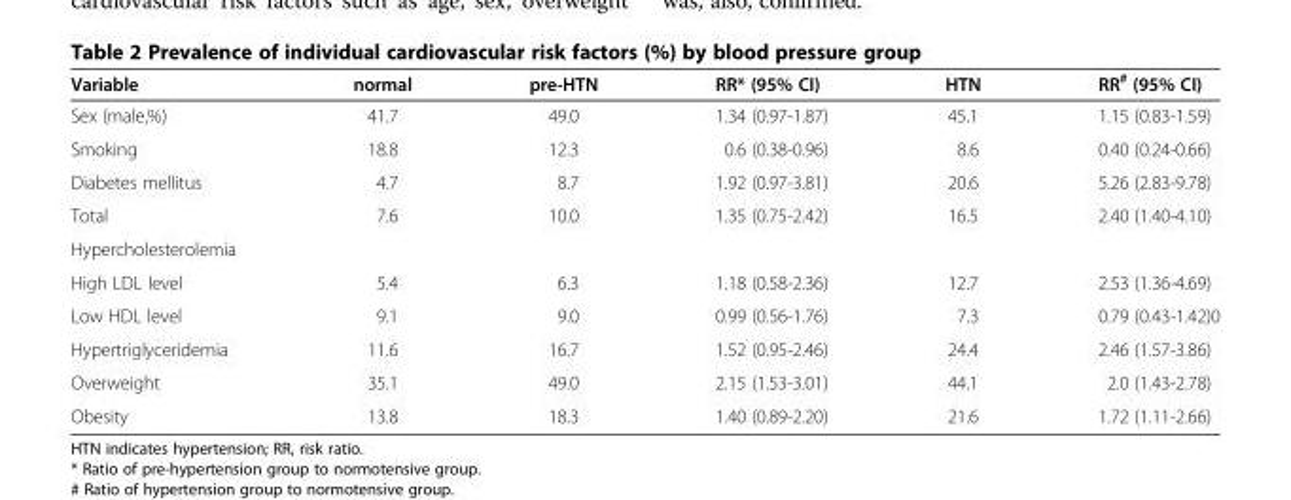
<table><thead><tr><td>Variable</td><td>normal</td><td>pre-HTN</td><td>RR* (95% CI)</td><td>HTN</td><td>RR<sup>#</sup> (95% CI)</td></tr></thead><tbody><tr><td>Sex (male,%)</td><td>41.7</td><td>49.0</td><td>1.34 (0.97-1.87)</td><td>45.1</td><td>1.15 (0.83-1.59)</td></tr><tr><td>Smoking</td><td>18.8</td><td>12.3</td><td>0.6 (0.38-0.96)</td><td>8.6</td><td>0.40 (0.24-0.66)</td></tr><tr><td>Diabetes mellitus</td><td>4.7</td><td>8.7</td><td>1.92 (0.97-3.81)</td><td>20.6</td><td>5.26 (2.83-9.78)</td></tr><tr><td>Total</td><td>7.6</td><td>10.0</td><td>1.35 (0.75-2.42)</td><td>16.5</td><td>2.40 (1.40-4.10)</td></tr><tr><td colspan="6">Hypercholesterolemia</td></tr><tr><td>High LDL level</td><td>5.4</td><td>6.3</td><td>1.18 (0.58-2.36)</td><td>12.7</td><td>2.53 (1.36-4.69)</td></tr><tr><td>Low HDL level</td><td>9.1</td><td>9.0</td><td>0.99 (0.56-1.76)</td><td>7.3</td><td>0.79 (0.43-1.42)0</td></tr><tr><td>Hypertriglyceridemia</td><td>11.6</td><td>16.7</td><td>1.52 (0.95-2.46)</td><td>24.4</td><td>2.46 (1.57-3.86)</td></tr><tr><td>Overweight</td><td>35.1</td><td>49.0</td><td>2.15 (1.53-3.01)</td><td>44.1</td><td>2.0 (1.43-2.78)</td></tr><tr><td>Obesity</td><td>13.8</td><td>18.3</td><td>1.40 (0.89-2.20)</td><td>21.6</td><td>1.72 (1.11-2.66)</td></tr></tbody></table>